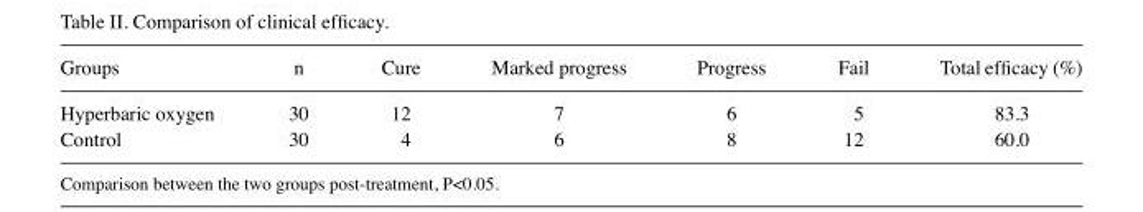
<table><thead><tr><td>Groups</td><td>n</td><td>Cure</td><td>Marked progress</td><td>Progress</td><td>Fail</td><td>Total efficacy (%)</td></tr></thead><tbody><tr><td>Hyperbaric oxygen</td><td>30</td><td>12</td><td>7</td><td>6</td><td>5</td><td>83.3</td></tr><tr><td>Control</td><td>30</td><td>4</td><td>6</td><td>8</td><td>12</td><td>60.0</td></tr></tbody></table>